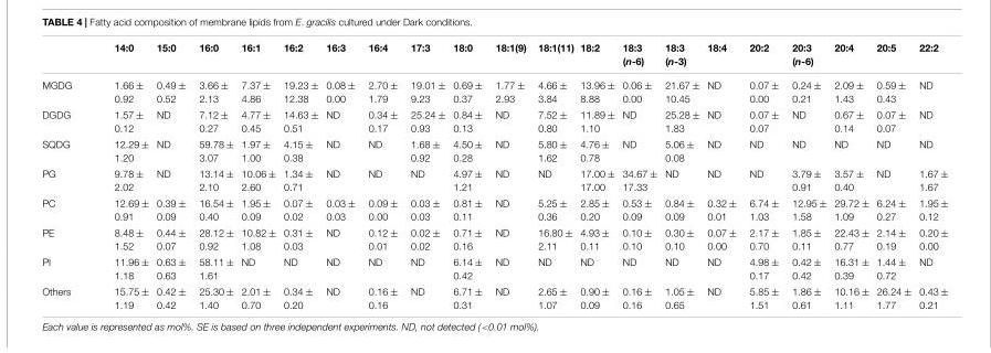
<table><thead><tr><td></td><td>14:0</td><td>15:0</td><td>16:0</td><td>16:1</td><td>16:2</td><td>16:3</td><td>16:4</td><td>17:3</td><td>18:0</td><td>18:1(9)</td><td>18:1(11)</td><td>18:2</td><td>18:3 (n-6)</td><td>18:3 (n-3)</td><td>18:4</td><td>20:2</td><td>20:3 (n-6)</td><td>20:4</td><td>20:5</td><td>22:2</td></tr></thead><tbody><tr><td>MGDG</td><td>1.66 ± 0.92</td><td>0.49 ± 0.52</td><td>3.66 ± 2.13</td><td>7.37 ± 4.86</td><td>19.23 ± 12.38</td><td>0.08 ± 0.00</td><td>2.70 ± 1.79</td><td>19.01 ± 9.23</td><td>0.69 ± 0.37</td><td>1.77 ± 2.93</td><td>4.66 ± 3.84</td><td>13.96 ± 8.88</td><td>0.06 ± 0.00</td><td>21.67 ± 10.45</td><td>ND</td><td>0.07 ± 0.00</td><td>0.24 ± 0.21</td><td>2.09 ± 1.43</td><td>0.59 ± 0.43</td><td>ND</td></tr><tr><td>DGDG</td><td>1.57 ± 0.12</td><td>ND</td><td>7.12 ± 0.27</td><td>4.77 ± 0.45</td><td>14.63 ± 0.51</td><td>ND</td><td>0.34 ± 0.17</td><td>25.24 ± 0.93</td><td>0.84 ± 0.13</td><td>ND</td><td>7.52 ± 0.80</td><td>11.89 ± 1.10</td><td>ND</td><td>25.28 ± 1.83</td><td>ND</td><td>0.07 ± 0.07</td><td>ND</td><td>0.67 ± 0.14</td><td>0.07 ± 0.07</td><td>ND</td></tr><tr><td>SQDG</td><td>12.29 ± 1.20</td><td>ND</td><td>59.78 ± 3.07</td><td>1.97 ± 1.00</td><td>4.15 ± 0.38</td><td>ND</td><td>ND</td><td>1.68 ± 0.92</td><td>4.50 ± 0.28</td><td>ND</td><td>5.80 ± 1.62</td><td>4.76 ± 0.78</td><td>ND</td><td>5.06 ± 0.08</td><td>ND</td><td>ND</td><td>ND</td><td>ND</td><td>ND</td><td>ND</td></tr><tr><td>PG</td><td>9.78 ± 2.02</td><td>ND</td><td>13.14 ± 2.10</td><td>10.06 ± 2.60</td><td>1.34 ± 0.71</td><td>ND</td><td>ND</td><td>ND</td><td>4.97 ± 1.21</td><td>ND</td><td>ND</td><td>17.00 ± 17.00</td><td>34.67 ± 17.33</td><td>ND</td><td>ND</td><td>ND</td><td>3.79 ± 0.91</td><td>3.57 ± 0.40</td><td>ND</td><td>1.67 ± 1.67</td></tr><tr><td>PC</td><td>12.69 ± 0.91</td><td>0.39 ± 0.09</td><td>16.54 ± 0.40</td><td>1.95 ± 0.09</td><td>0.07 ± 0.02</td><td>0.03 ± 0.03</td><td>0.09 ± 0.00</td><td>0.03 ± 0.03</td><td>0.81 ± 0.11</td><td>ND</td><td>5.25 ± 0.36</td><td>2.85 ± 0.20</td><td>0.53 ± 0.09</td><td>0.84 ± 0.09</td><td>0.32 ± 0.01</td><td>6.74 ± 1.03</td><td>12.95 ± 1.58</td><td>29.72 ± 1.09</td><td>6.24 ± 0.27</td><td>1.95 ± 0.12</td></tr><tr><td>PE</td><td>8.48 ± 1.52</td><td>0.44 ± 0.07</td><td>28.12 ± 0.92</td><td>10.82 ± 1.08</td><td>0.31 ± 0.03</td><td>ND</td><td>0.12 ± 0.01</td><td>0.02 ± 0.02</td><td>0.71 ± 0.16</td><td>ND</td><td>16.80 ± 2.11</td><td>4.93 ± 0.11</td><td>0.10 ± 0.10</td><td>0.30 ± 0.10</td><td>0.07 ± 0.00</td><td>2.17 ± 0.70</td><td>1.85 ± 0.11</td><td>22.43 ± 0.77</td><td>2.14 ± 0.19</td><td>0.20 ± 0.00</td></tr><tr><td>PI</td><td>11.96 ± 1.18</td><td>0.63 ± 0.63</td><td>58.11 ± 1.61</td><td>ND</td><td>ND</td><td>ND</td><td>ND</td><td>ND</td><td>6.14 ± 0.42</td><td>ND</td><td>ND</td><td>ND</td><td>ND</td><td>ND</td><td>ND</td><td>4.98 ± 0.17</td><td>0.42 ± 0.42</td><td>16.31 ± 0.39</td><td>1.44 ± 0.72</td><td>ND</td></tr><tr><td>Others</td><td>15.75 ± 1.19</td><td>0.42 ± 0.42</td><td>25.30 ± 1.40</td><td>2.01 ± 0.70</td><td>0.34 ± 0.20</td><td>ND</td><td>0.16 ± 0.16</td><td>ND</td><td>6.71 ± 0.31</td><td>ND</td><td>2.65 ± 1.07</td><td>0.90 ± 0.09</td><td>0.16 ± 0.16</td><td>1.05 ± 0.65</td><td>ND</td><td>5.85 ± 1.51</td><td>1.86 ± 0.61</td><td>10.16 ± 1.11</td><td>26.24 ± 1.77</td><td>0.43 ± 0.21</td></tr></tbody></table>